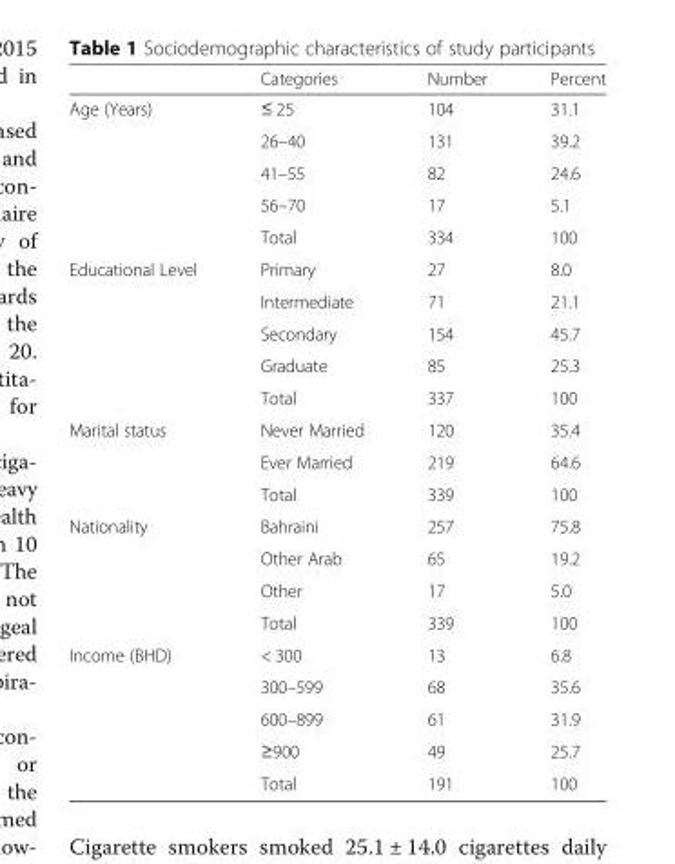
<table><thead><tr><td></td><td>Categories</td><td>Number</td><td>Percent</td></tr></thead><tbody><tr><td rowspan="5">Age (Years)</td><td>≤ 25</td><td>104</td><td>31.1</td></tr><tr><td>26–40</td><td>131</td><td>39.2</td></tr><tr><td>41–55</td><td>82</td><td>24.6</td></tr><tr><td>56–70</td><td>17</td><td>5.1</td></tr><tr><td>Total</td><td>334</td><td>100</td></tr><tr><td rowspan="5">Educational Level</td><td>Primary</td><td>27</td><td>8.0</td></tr><tr><td>Intermediate</td><td>71</td><td>21.1</td></tr><tr><td>Secondary</td><td>154</td><td>45.7</td></tr><tr><td>Graduate</td><td>85</td><td>25.3</td></tr><tr><td>Total</td><td>337</td><td>100</td></tr><tr><td rowspan="3">Marital status</td><td>Never Married</td><td>120</td><td>35.4</td></tr><tr><td>Ever Married</td><td>219</td><td>64.6</td></tr><tr><td>Total</td><td>339</td><td>100</td></tr><tr><td rowspan="4">Nationality</td><td>Bahraini</td><td>257</td><td>75.8</td></tr><tr><td>Other Arab</td><td>65</td><td>19.2</td></tr><tr><td>Other</td><td>17</td><td>5.0</td></tr><tr><td>Total</td><td>339</td><td>100</td></tr><tr><td rowspan="5">Income (BHD)</td><td>&lt; 300</td><td>13</td><td>6.8</td></tr><tr><td>300–599</td><td>68</td><td>35.6</td></tr><tr><td>600–899</td><td>61</td><td>31.9</td></tr><tr><td>≥900</td><td>49</td><td>25.7</td></tr><tr><td>Total</td><td>191</td><td>100</td></tr></tbody></table>